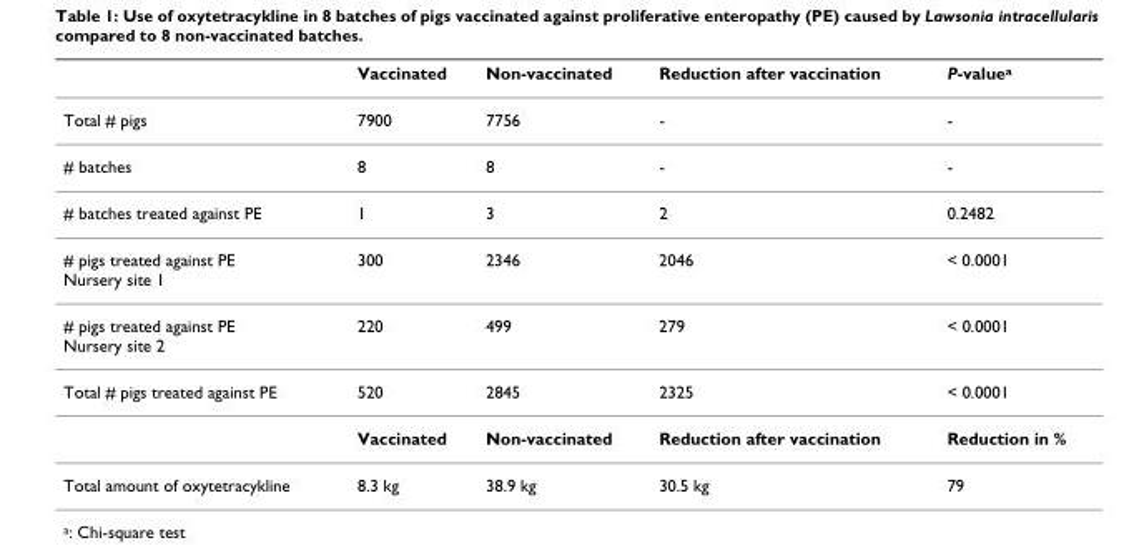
<table><thead><tr><td></td><td>Vaccinated</td><td>Non-vaccinated</td><td>Reduction after vaccination</td><td>P-value<sup>a</sup></td></tr></thead><tbody><tr><td>Total # pigs</td><td>7900</td><td>7756</td><td>-</td><td>-</td></tr><tr><td># batches</td><td>8</td><td>8</td><td>-</td><td>-</td></tr><tr><td># batches treated against PE</td><td>1</td><td>3</td><td>2</td><td>0.2482</td></tr><tr><td># pigs treated against PE Nursery site 1</td><td>300</td><td>2346</td><td>2046</td><td>&lt; 0.0001</td></tr><tr><td># pigs treated against PE Nursery site 2</td><td>220</td><td>499</td><td>279</td><td>&lt; 0.0001</td></tr><tr><td rowspan="2">Total # pigs treated against PE</td><td>520</td><td>2845</td><td>2325</td><td>&lt; 0.0001</td></tr><tr><td>Vaccinated</td><td>Non-vaccinated</td><td>Reduction after vaccination</td><td>Reduction in %</td></tr><tr><td>Total amount of oxytetracykline</td><td>8.3 kg</td><td>38.9 kg</td><td>30.5 kg</td><td>79</td></tr></tbody></table>